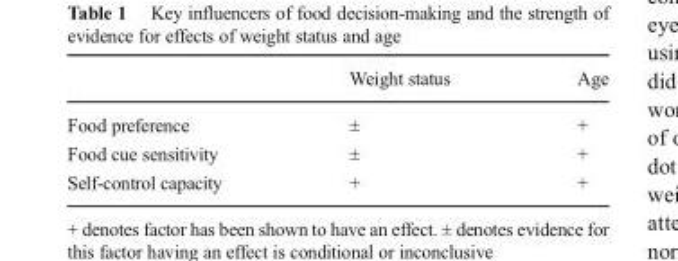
<table><thead><tr><td></td><td>Weight status</td><td>Age</td></tr></thead><tbody><tr><td>Food preference</td><td>±</td><td>+</td></tr><tr><td>Food cue sensitivity</td><td>±</td><td>+</td></tr><tr><td>Self-control capacity</td><td>+</td><td>+</td></tr></tbody></table>